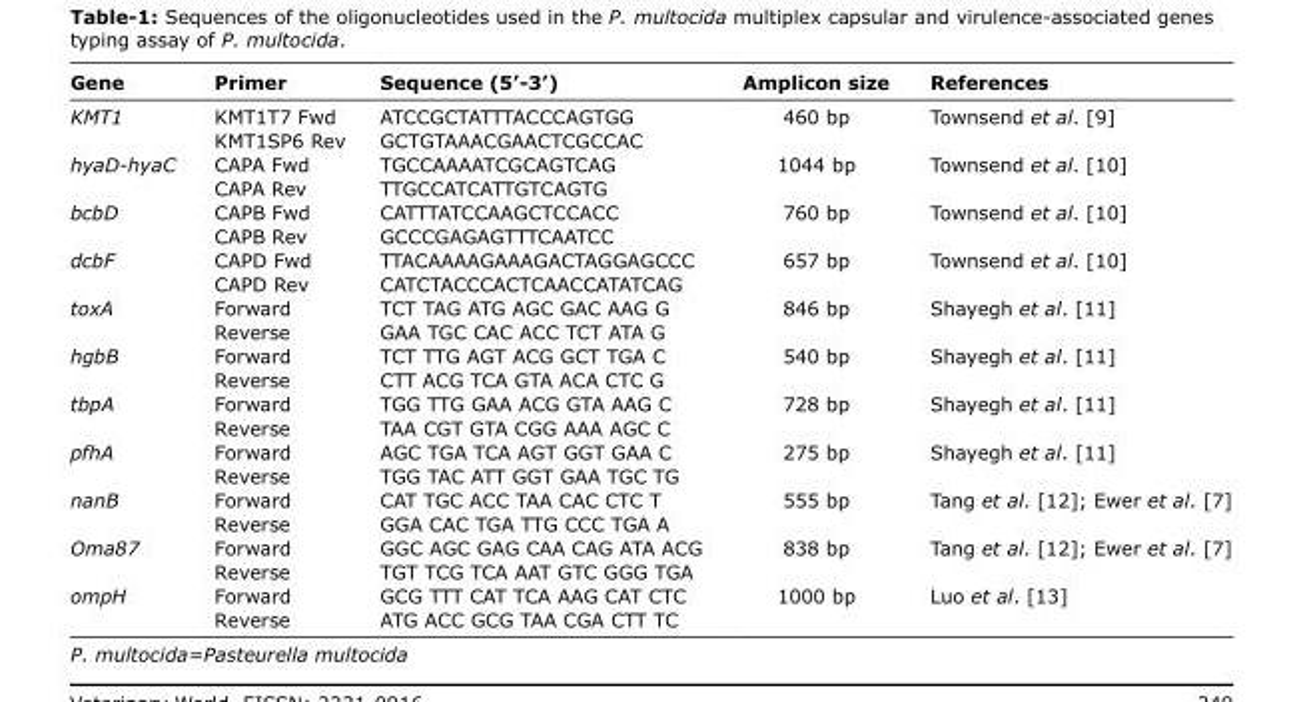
<table><thead><tr><td>Gene</td><td>Primer</td><td>Sequence (5’-3’)</td><td>Amplicon size</td><td>References</td></tr></thead><tbody><tr><td rowspan="2">KMT1</td><td>KMT1T7 Fwd</td><td>ATCCGCTATTTACCCAGTGG</td><td>460 bp</td><td>Townsend et al. [9]</td></tr><tr><td>KMT1SP6 Rev</td><td>GCTGTAAACGAACTCGCCAC</td><td></td><td></td></tr><tr><td rowspan="2">hyaD‑hyaC</td><td>CAPA Fwd</td><td>TGCCAAAATCGCAGTCAG</td><td>1044 bp</td><td>Townsend et al. [10]</td></tr><tr><td>CAPA Rev</td><td>TTGCCATCATTGTCAGTG</td><td></td><td></td></tr><tr><td rowspan="2">bcbD</td><td>CAPB Fwd</td><td>CATTTATCCAAGCTCCACC</td><td>760 bp</td><td>Townsend et al. [10]</td></tr><tr><td>CAPB Rev</td><td>GCCCGAGAGTTTCAATCC</td><td></td><td></td></tr><tr><td rowspan="2">dcbF</td><td>CAPD Fwd</td><td>TTACAAAAGAAAGACTAGGAGCCC</td><td>657 bp</td><td>Townsend et al. [10]</td></tr><tr><td>CAPD Rev</td><td>CATCTACCCACTCAACCATATCAG</td><td></td><td></td></tr><tr><td rowspan="2">toxA</td><td>Forward</td><td>TCT TAG ATG AGC GAC AAG G</td><td>846 bp</td><td>Shayegh et al. [11]</td></tr><tr><td>Reverse</td><td>GAA TGC CAC ACC TCT ATA G</td><td></td><td></td></tr><tr><td rowspan="2">hgbB</td><td>Forward</td><td>TCT TTG AGT ACG GCT TGA C</td><td>540 bp</td><td>Shayegh et al. [11]</td></tr><tr><td>Reverse</td><td>CTT ACG TCA GTA ACA CTC G</td><td></td><td></td></tr><tr><td rowspan="2">tbpA</td><td>Forward</td><td>TGG TTG GAA ACG GTA AAG C</td><td>728 bp</td><td>Shayegh et al. [11]</td></tr><tr><td>Reverse</td><td>TAA CGT GTA CGG AAA AGC C</td><td></td><td></td></tr><tr><td rowspan="2">pfhA</td><td>Forward</td><td>AGC TGA TCA AGT GGT GAA C</td><td>275 bp</td><td>Shayegh et al. [11]</td></tr><tr><td>Reverse</td><td>TGG TAC ATT GGT GAA TGC TG</td><td></td><td></td></tr><tr><td rowspan="2">nanB</td><td>Forward</td><td>CAT TGC ACC TAA CAC CTC T</td><td>555 bp</td><td>Tang et al. [12]; Ewer et al. [7]</td></tr><tr><td>Reverse</td><td>GGA CAC TGA TTG CCC TGA A</td><td></td><td></td></tr><tr><td rowspan="2">Oma87</td><td>Forward</td><td>GGC AGC GAG CAA CAG ATA ACG</td><td>838 bp</td><td>Tang et al. [12]; Ewer et al. [7]</td></tr><tr><td>Reverse</td><td>TGT TCG TCA AAT GTC GGG TGA</td><td></td><td></td></tr><tr><td rowspan="2">ompH</td><td>Forward</td><td>GCG TTT CAT TCA AAG CAT CTC</td><td>1000 bp</td><td>Luo et al. [13]</td></tr><tr><td>Reverse</td><td>ATG ACC GCG TAA CGA CTT TC</td><td></td><td></td></tr></tbody></table>